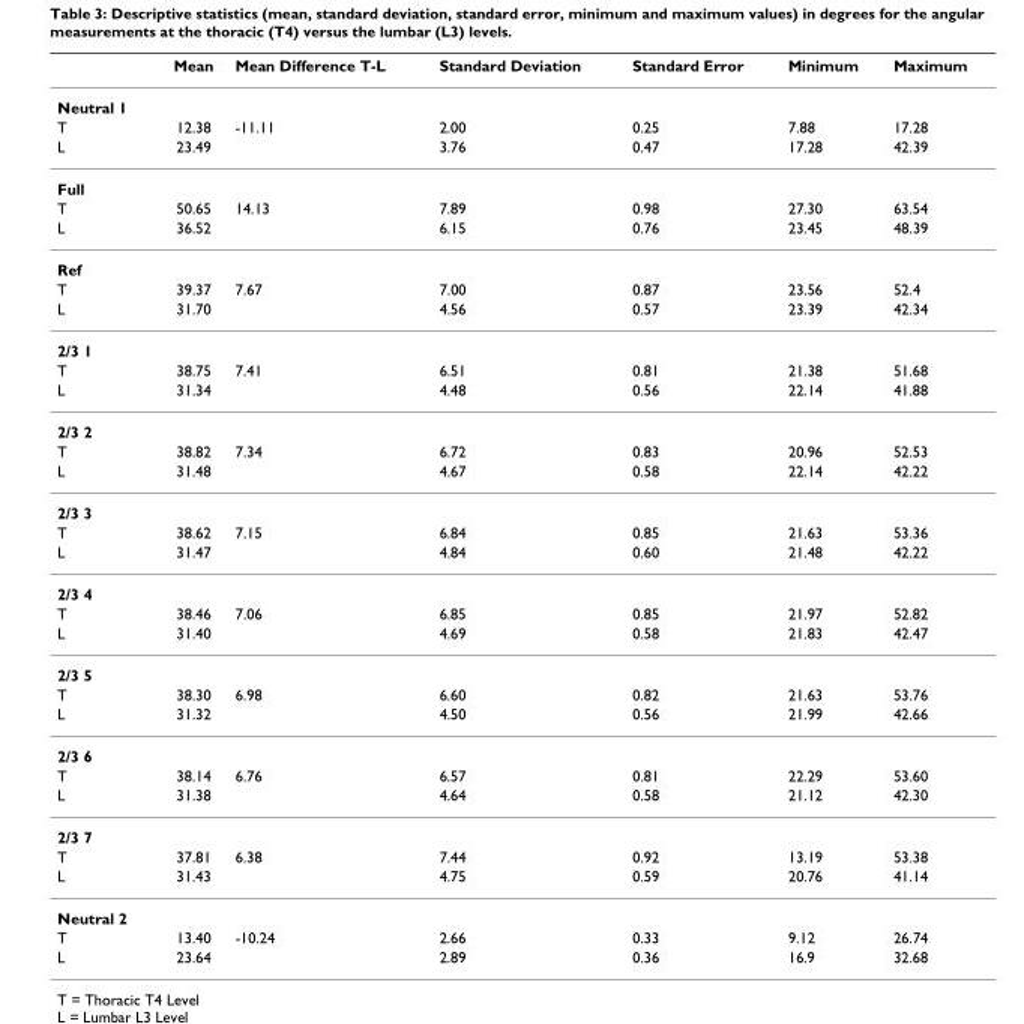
<table><thead><tr><td></td><td>Mean</td><td>Mean Difference T-L</td><td>Standard Deviation</td><td>Standard Error</td><td>Minimum</td><td>Maximum</td></tr></thead><tbody><tr><td colspan="7">Neutral 1</td></tr><tr><td>T</td><td>12.38</td><td>-11.11</td><td>2.00</td><td>0.25</td><td>7.88</td><td>17.28</td></tr><tr><td>L</td><td>23.49</td><td></td><td>3.76</td><td>0.47</td><td>17.28</td><td>42.39</td></tr><tr><td colspan="7">Full</td></tr><tr><td>T</td><td>50.65</td><td>14.13</td><td>7.89</td><td>0.98</td><td>27.30</td><td>63.54</td></tr><tr><td>L</td><td>36.52</td><td></td><td>6.15</td><td>0.76</td><td>23.45</td><td>48.39</td></tr><tr><td colspan="7">Ref</td></tr><tr><td>T</td><td>39.37</td><td>7.67</td><td>7.00</td><td>0.87</td><td>23.56</td><td>52.4</td></tr><tr><td>L</td><td>31.70</td><td></td><td>4.56</td><td>0.57</td><td>23.39</td><td>42.34</td></tr><tr><td colspan="7">2/3 1</td></tr><tr><td>T</td><td>38.75</td><td>7.41</td><td>6.51</td><td>0.81</td><td>21.38</td><td>51.68</td></tr><tr><td>L</td><td>31.34</td><td></td><td>4.48</td><td>0.56</td><td>22.14</td><td>41.88</td></tr><tr><td colspan="7">2/3 2</td></tr><tr><td>T</td><td>38.82</td><td>7.34</td><td>6.72</td><td>0.83</td><td>20.96</td><td>52.53</td></tr><tr><td>L</td><td>31.48</td><td></td><td>4.67</td><td>0.58</td><td>22.14</td><td>42.22</td></tr><tr><td colspan="7">2/3 3</td></tr><tr><td>T</td><td>38.62</td><td>7.15</td><td>6.84</td><td>0.85</td><td>21.63</td><td>53.36</td></tr><tr><td>L</td><td>31.47</td><td></td><td>4.84</td><td>0.60</td><td>21.48</td><td>42.22</td></tr><tr><td colspan="7">2/3 4</td></tr><tr><td>T</td><td>38.46</td><td>7.06</td><td>6.85</td><td>0.85</td><td>21.97</td><td>52.82</td></tr><tr><td>L</td><td>31.40</td><td></td><td>4.69</td><td>0.58</td><td>21.83</td><td>42.47</td></tr><tr><td colspan="7">2/3 5</td></tr><tr><td>T</td><td>38.30</td><td>6.98</td><td>6.60</td><td>0.82</td><td>21.63</td><td>53.76</td></tr><tr><td>L</td><td>31.32</td><td></td><td>4.50</td><td>0.56</td><td>21.99</td><td>42.66</td></tr><tr><td colspan="7">2/3 6</td></tr><tr><td>T</td><td>38.14</td><td>6.76</td><td>6.57</td><td>0.81</td><td>22.29</td><td>53.60</td></tr><tr><td>L</td><td>31.38</td><td></td><td>4.64</td><td>0.58</td><td>21.12</td><td>42.30</td></tr><tr><td colspan="7">2/3 7</td></tr><tr><td>T</td><td>37.81</td><td>6.38</td><td>7.44</td><td>0.92</td><td>13.19</td><td>53.38</td></tr><tr><td>L</td><td>31.43</td><td></td><td>4.75</td><td>0.59</td><td>20.76</td><td>41.14</td></tr><tr><td colspan="7">Neutral 2</td></tr><tr><td>T</td><td>13.40</td><td>-10.24</td><td>2.66</td><td>0.33</td><td>9.12</td><td>26.74</td></tr><tr><td>L</td><td>23.64</td><td></td><td>2.89</td><td>0.36</td><td>16.9</td><td>32.68</td></tr></tbody></table>